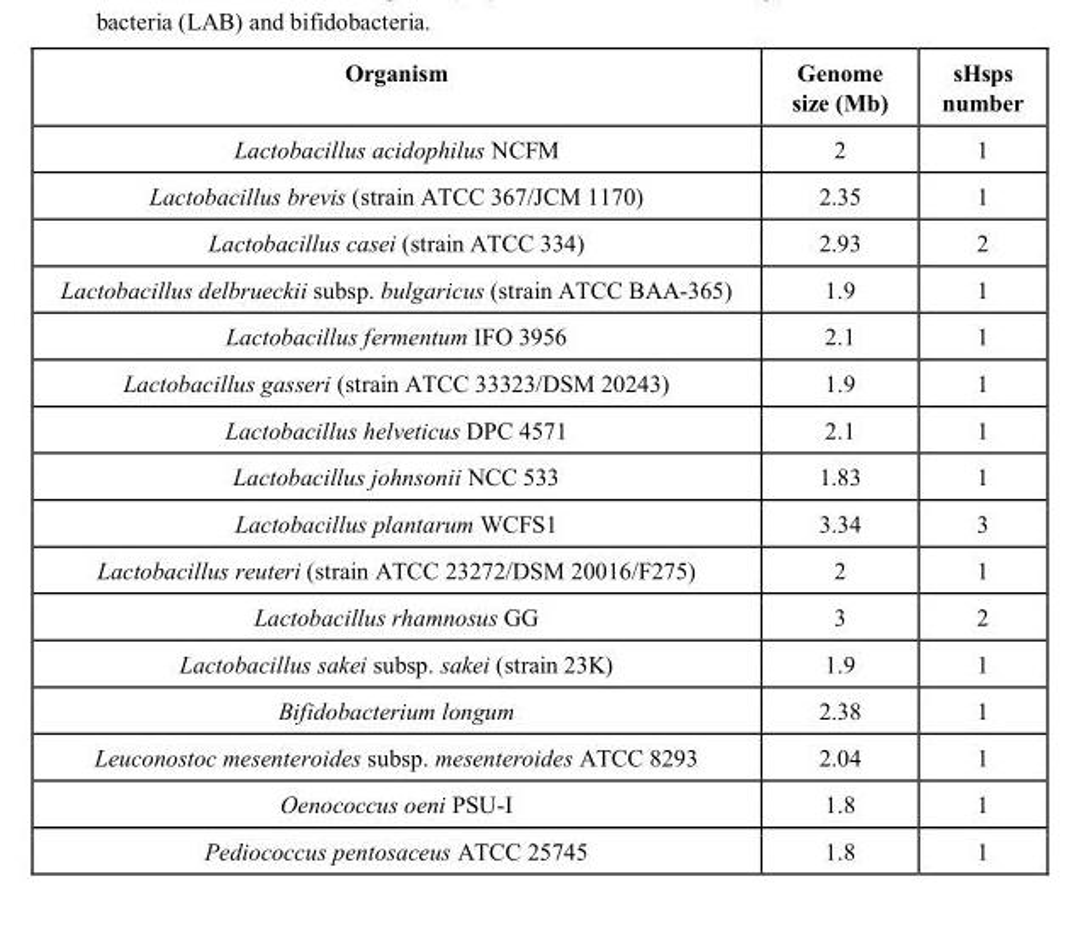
<table><thead><tr><td>Organism</td><td>Genome size (Mb)</td><td>sHsps number</td></tr></thead><tbody><tr><td>Lactobacillus acidophilus NCFM</td><td>2</td><td>1</td></tr><tr><td>Lactobacillus brevis (strain ATCC 367/JCM 1170)</td><td>2.35</td><td>1</td></tr><tr><td>Lactobacillus casei (strain ATCC 334)</td><td>2.93</td><td>2</td></tr><tr><td>Lactobacillus delbrueckii subsp. bulgaricus (strain ATCC BAA-365)</td><td>1.9</td><td>1</td></tr><tr><td>Lactobacillus fermentum IFO 3956</td><td>2.1</td><td>1</td></tr><tr><td>Lactobacillus gasseri (strain ATCC 33323/DSM 20243)</td><td>1.9</td><td>1</td></tr><tr><td>Lactobacillus helveticus DPC 4571</td><td>2.1</td><td>1</td></tr><tr><td>Lactobacillus johnsonii NCC 533</td><td>1.83</td><td>1</td></tr><tr><td>Lactobacillus plantarum WCFS1</td><td>3.34</td><td>3</td></tr><tr><td>Lactobacillus reuteri (strain ATCC 23272/DSM 20016/F275)</td><td>2</td><td>1</td></tr><tr><td>Lactobacillus rhamnosus GG</td><td>3</td><td>2</td></tr><tr><td>Lactobacillus sakei subsp. sakei (strain 23K)</td><td>1.9</td><td>1</td></tr><tr><td>Bifidobacterium longum</td><td>2.38</td><td>1</td></tr><tr><td>Leuconostoc mesenteroides subsp. mesenteroides ATCC 8293</td><td>2.04</td><td>1</td></tr><tr><td>Oenococcus oeni PSU-I</td><td>1.8</td><td>1</td></tr><tr><td>Pediococcus pentosaceus ATCC 25745</td><td>1.8</td><td>1</td></tr></tbody></table>